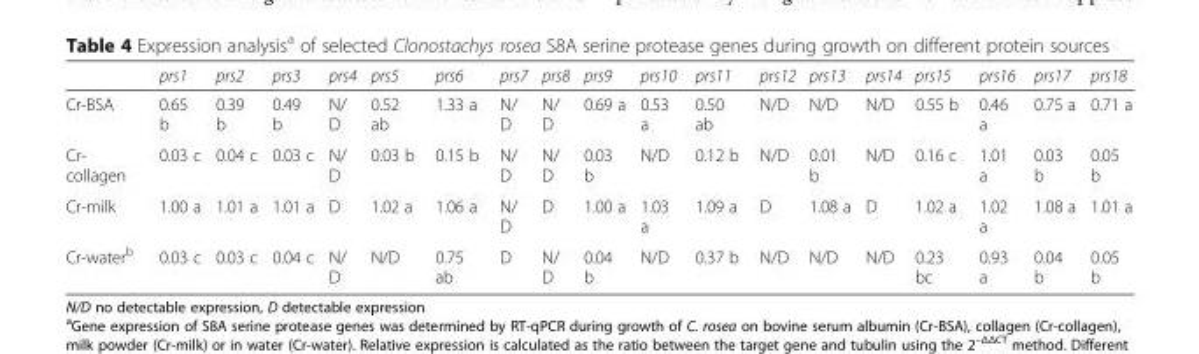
<table><thead><tr><td></td><td>prs1</td><td>prs2</td><td>prs3</td><td>prs4</td><td>prs5</td><td>prs6</td><td>prs7</td><td>prs8</td><td>prs9</td><td>prs10</td><td>prs11</td><td>prs12</td><td>prs13</td><td>prs14</td><td>prs15</td><td>prs16</td><td>prs17</td><td>prs18</td></tr></thead><tbody><tr><td>Cr-BSA</td><td>0.65 b</td><td>0.39 b</td><td>0.49 b</td><td>N/ D</td><td>0.52 ab</td><td>1.33 a</td><td>N/ D</td><td>N/ D</td><td>0.69 a</td><td>0.53 a</td><td>0.50 ab</td><td>N/D</td><td>N/D</td><td>N/D</td><td>0.55 b</td><td>0.46 a</td><td>0.75 a</td><td>0.71 a</td></tr><tr><td>Cr- collagen</td><td>0.03 c</td><td>0.04 c</td><td>0.03 c</td><td>N/ D</td><td>0.03 b</td><td>0.15 b</td><td>N/ D</td><td>N/ D</td><td>0.03 b</td><td>N/D</td><td>0.12 b</td><td>N/D</td><td>0.01 b</td><td>N/D</td><td>0.16 c</td><td>1.01 a</td><td>0.03 b</td><td>0.05 b</td></tr><tr><td>Cr-milk</td><td>1.00 a</td><td>1.01 a</td><td>1.01 a</td><td>D</td><td>1.02 a</td><td>1.06 a</td><td>N/ D</td><td>D</td><td>1.00 a</td><td>1.03 a</td><td>1.09 a</td><td>D</td><td>1.08 a</td><td>D</td><td>1.02 a</td><td>1.02 a</td><td>1.08 a</td><td>1.01 a</td></tr><tr><td>Cr-water<sup>b</sup></td><td>0.03 c</td><td>0.03 c</td><td>0.04 c</td><td>N/ D</td><td>N/D</td><td>0.75 ab</td><td>D</td><td>N/ D</td><td>0.04 b</td><td>N/D</td><td>0.37 b</td><td>N/D</td><td>N/D</td><td>N/D</td><td>0.23 bc</td><td>0.93 a</td><td>0.04 b</td><td>0.05 b</td></tr></tbody></table>